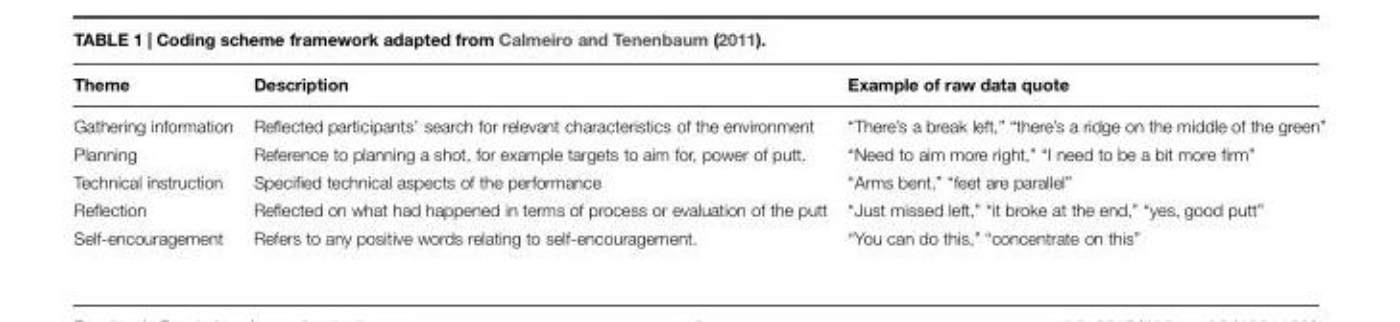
<table><thead><tr><td>Theme</td><td>Description</td><td>Example of raw data quote</td></tr></thead><tbody><tr><td>Gathering information</td><td>Reflected participants’ search for relevant characteristics of the environment</td><td>“There’s a break left,” “there’s a ridge on the middle of the green”</td></tr><tr><td>Planning</td><td>Reference to planning a shot, for example targets to aim for, power of putt.</td><td>“Need to aim more right,” “I need to be a bit more firm”</td></tr><tr><td>Technical instruction</td><td>Specified technical aspects of the performance</td><td>“Arms bent,” “feet are parallel”</td></tr><tr><td>Reflection</td><td>Reflected on what had happened in terms of process or evaluation of the putt</td><td>“Just missed left,” “it broke at the end,” “yes, good putt”</td></tr><tr><td>Self-encouragement</td><td>Refers to any positive words relating to self-encouragement.</td><td>“You can do this,” “concentrate on this”</td></tr></tbody></table>